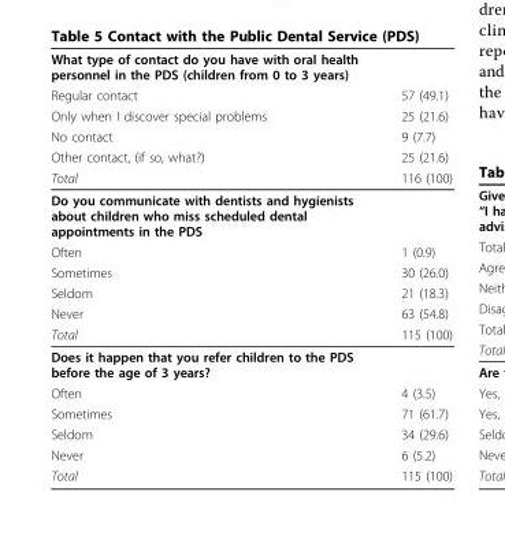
<table><thead><tr><td rowspan="6">What type of contact do you have with oral health personnel in the PDS (children from 0 to 3 years) Regular contact Only when I discover special problems No contact Other contact, (if so, what?) Total</td><td rowspan="6">57 (49.1) 25 (21.6) 9 (7.7) 25 (21.6) 116 (100)</td></tr><tr></tr><tr></tr><tr></tr><tr></tr><tr></tr></thead><tbody><tr><td colspan="2">Do you communicate with dentists and hygienists about children who miss scheduled dental appointments in the PDS</td></tr><tr><td>Often</td><td>1 (0.9)</td></tr><tr><td>Sometimes</td><td>30 (26.0)</td></tr><tr><td>Seldom</td><td>21 (18.3)</td></tr><tr><td>Never</td><td>63 (54.8)</td></tr><tr><td>Total</td><td>115 (100)</td></tr><tr><td colspan="2">Does it happen that you refer children to the PDS before the age of 3 years?</td></tr><tr><td>Often</td><td>4 (3.5)</td></tr><tr><td>Sometimes</td><td>71 (61.7)</td></tr><tr><td>Seldom</td><td>34 (29.6)</td></tr><tr><td>Never</td><td>6 (5.2)</td></tr><tr><td>Total</td><td>115 (100)</td></tr></tbody></table>